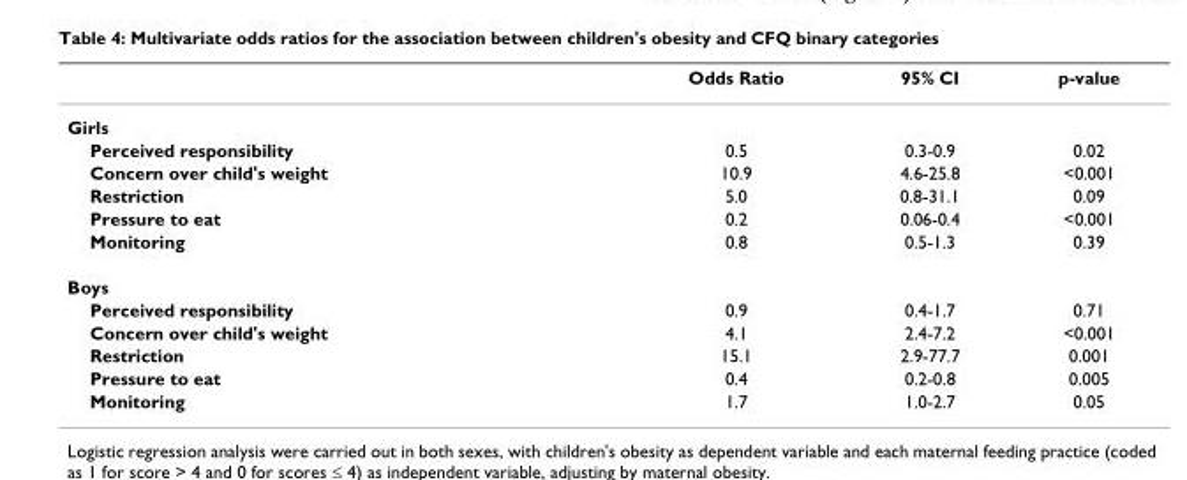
<table><thead><tr><td></td><td>Odds Ratio</td><td>95% CI</td><td>p-value</td></tr></thead><tbody><tr><td colspan="4">Girls</td></tr><tr><td>Perceived responsibility</td><td>0.5</td><td>0.3-0.9</td><td>0.02</td></tr><tr><td>Concern over child&#x27;s weight</td><td>10.9</td><td>4.6-25.8</td><td>&lt;0.001</td></tr><tr><td>Restriction</td><td>5.0</td><td>0.8-31.1</td><td>0.09</td></tr><tr><td>Pressure to eat</td><td>0.2</td><td>0.06-0.4</td><td>&lt;0.001</td></tr><tr><td>Monitoring</td><td>0.8</td><td>0.5-1.3</td><td>0.39</td></tr><tr><td colspan="4">Boys</td></tr><tr><td>Perceived responsibility</td><td>0.9</td><td>0.4-1.7</td><td>0.71</td></tr><tr><td>Concern over child&#x27;s weight</td><td>4.1</td><td>2.4-7.2</td><td>&lt;0.001</td></tr><tr><td>Restriction</td><td>15.1</td><td>2.9-77.7</td><td>0.001</td></tr><tr><td>Pressure to eat</td><td>0.4</td><td>0.2-0.8</td><td>0.005</td></tr><tr><td>Monitoring</td><td>1.7</td><td>1.0-2.7</td><td>0.05</td></tr></tbody></table>